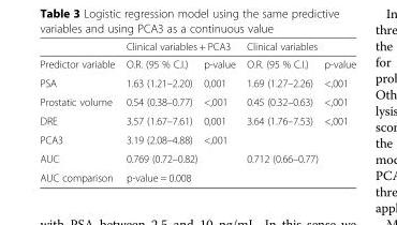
<table><thead><tr><td rowspan="2">Predictor variable</td><td colspan="2">Clinical variables + PCA3</td><td colspan="2">Clinical variables</td></tr><tr><td>O.R. (95 % C.I.)</td><td>p-value</td><td>O.R. (95 % C.I.)</td><td>p-value</td></tr></thead><tbody><tr><td>PSA</td><td>1.63 (1.21–2.20)</td><td>0,001</td><td>1.69 (1.27–2.26)</td><td>&lt;,001</td></tr><tr><td>Prostatic volume</td><td>0.54 (0.38–0.77)</td><td>&lt;,001</td><td>0.45 (0.32–0.63)</td><td>&lt;,001</td></tr><tr><td>DRE</td><td>3.57 (1.67–7.61)</td><td>0,001</td><td>3.64 (1.76–7.53)</td><td>&lt;,001</td></tr><tr><td>PCA3</td><td>3.19 (2.08–4.88)</td><td>&lt;,001</td><td></td><td></td></tr><tr><td>AUC</td><td colspan="2">0.769 (0.72–0.82)</td><td colspan="2">0.712 (0.66–0.77)</td></tr><tr><td>AUC comparison</td><td colspan="4">p-value = 0.008</td></tr></tbody></table>